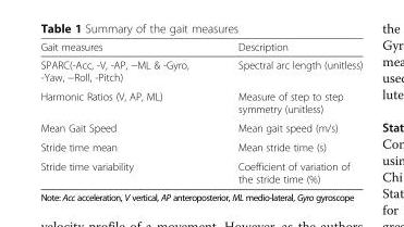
<table><thead><tr><td>Gait measures</td><td>Description</td></tr></thead><tbody><tr><td>SPARC(-Acc, -V, -AP, −ML &amp; -Gyro, -Yaw, −Roll, -Pitch)</td><td>Spectral arc length (unitless)</td></tr><tr><td>Harmonic Ratios (V, AP, ML)</td><td>Measure of step to step symmetry (unitless)</td></tr><tr><td>Mean Gait Speed</td><td>Mean gait speed (m/s)</td></tr><tr><td>Stride time mean</td><td>Mean stride time (s)</td></tr><tr><td>Stride time variability</td><td>Coefficient of variation of the stride time (%)</td></tr></tbody></table>